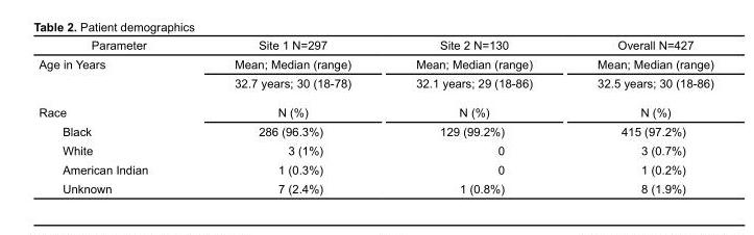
<table><thead><tr><td>Parameter</td><td>Site 1 N=297</td><td>Site 2 N=130</td><td>Overall N=427</td></tr></thead><tbody><tr><td rowspan="2">Age in Years</td><td>Mean; Median (range)</td><td>Mean; Median (range)</td><td>Mean; Median (range)</td></tr><tr><td>32.7 years; 30 (18-78)</td><td>32.1 years; 29 (18-86)</td><td>32.5 years; 30 (18-86)</td></tr><tr><td>Race</td><td>N (%)</td><td>N (%)</td><td>N (%)</td></tr><tr><td>Black</td><td>286 (96.3%)</td><td>129 (99.2%)</td><td>415 (97.2%)</td></tr><tr><td>White</td><td>3 (1%)</td><td>0</td><td>3 (0.7%)</td></tr><tr><td>American Indian</td><td>1 (0.3%)</td><td>0</td><td>1 (0.2%)</td></tr><tr><td>Unknown</td><td>7 (2.4%)</td><td>1 (0.8%)</td><td>8 (1.9%)</td></tr></tbody></table>